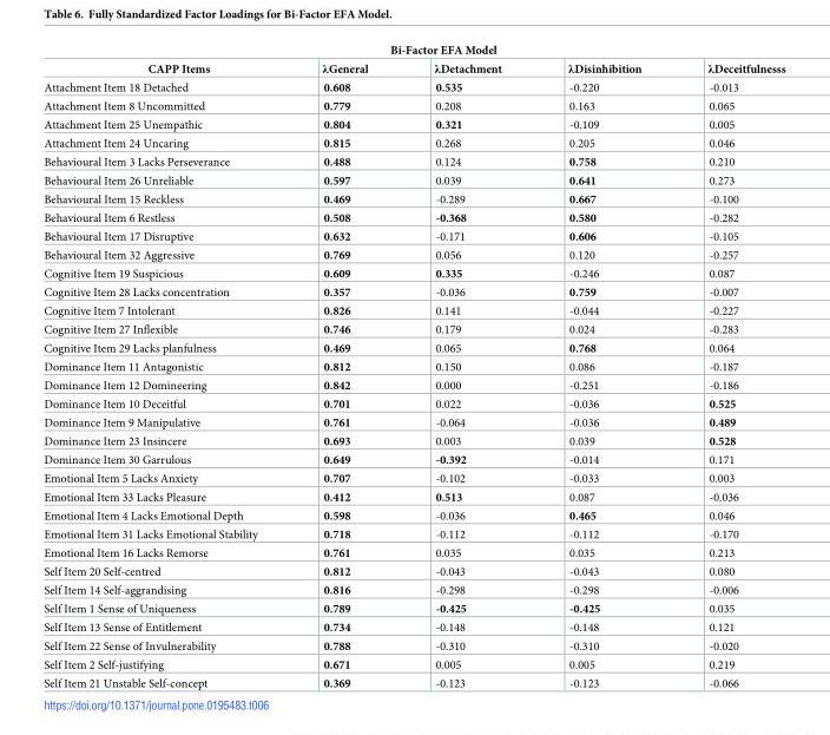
<table><thead><tr><td colspan="5">Bi-Factor EFA Model</td></tr><tr><td>CAPP Items</td><td>λGeneral</td><td>λDetachment</td><td>λDisinhibition</td><td>λDeceitfulnesss</td></tr></thead><tbody><tr><td>Attachment Item 18 Detached</td><td>0.608</td><td>0.535</td><td>-0.220</td><td>-0.013</td></tr><tr><td>Attachment Item 8 Uncommitted</td><td>0.779</td><td>0.208</td><td>0.163</td><td>0.065</td></tr><tr><td>Attachment Item 25 Unempathic</td><td>0.804</td><td>0.321</td><td>-0.109</td><td>0.005</td></tr><tr><td>Attachment Item 24 Uncaring</td><td>0.815</td><td>0.268</td><td>0.205</td><td>0.046</td></tr><tr><td>Behavioural Item 3 Lacks Perseverance</td><td>0.488</td><td>0.124</td><td>0.758</td><td>0.210</td></tr><tr><td>Behavioural Item 26 Unreliable</td><td>0.597</td><td>0.039</td><td>0.641</td><td>0.273</td></tr><tr><td>Behavioural Item 15 Reckless</td><td>0.469</td><td>-0.289</td><td>0.667</td><td>-0.100</td></tr><tr><td>Behavioural Item 6 Restless</td><td>0.508</td><td>-0.368</td><td>0.580</td><td>-0.282</td></tr><tr><td>Behavioural Item 17 Disruptive</td><td>0.632</td><td>-0.171</td><td>0.606</td><td>-0.105</td></tr><tr><td>Behavioural Item 32 Aggressive</td><td>0.769</td><td>0.056</td><td>0.120</td><td>-0.257</td></tr><tr><td>Cognitive Item 19 Suspicious</td><td>0.609</td><td>0.335</td><td>-0.246</td><td>0.087</td></tr><tr><td>Cognitive Item 28 Lacks concentration</td><td>0.357</td><td>-0.036</td><td>0.759</td><td>-0.007</td></tr><tr><td>Cognitive Item 7 Intolerant</td><td>0.826</td><td>0.141</td><td>-0.044</td><td>-0.227</td></tr><tr><td>Cognitive Item 27 Inflexible</td><td>0.746</td><td>0.179</td><td>0.024</td><td>-0.283</td></tr><tr><td>Cognitive Item 29 Lacks planfulness</td><td>0.469</td><td>0.065</td><td>0.768</td><td>0.064</td></tr><tr><td>Dominance Item 11 Antagonistic</td><td>0.812</td><td>0.150</td><td>0.086</td><td>-0.187</td></tr><tr><td>Dominance Item 12 Domineering</td><td>0.842</td><td>0.000</td><td>-0.251</td><td>-0.186</td></tr><tr><td>Dominance Item 10 Deceitful</td><td>0.701</td><td>0.022</td><td>-0.036</td><td>0.525</td></tr><tr><td>Dominance Item 9 Manipulative</td><td>0.761</td><td>-0.064</td><td>-0.036</td><td>0.489</td></tr><tr><td>Dominance Item 23 Insincere</td><td>0.693</td><td>0.003</td><td>0.039</td><td>0.528</td></tr><tr><td>Dominance Item 30 Garrulous</td><td>0.649</td><td>-0.392</td><td>-0.014</td><td>0.171</td></tr><tr><td>Emotional Item 5 Lacks Anxiety</td><td>0.707</td><td>-0.102</td><td>-0.033</td><td>0.003</td></tr><tr><td>Emotional Item 33 Lacks Pleasure</td><td>0.412</td><td>0.513</td><td>0.087</td><td>-0.036</td></tr><tr><td>Emotional Item 4 Lacks Emotional Depth</td><td>0.598</td><td>-0.036</td><td>0.465</td><td>0.046</td></tr><tr><td>Emotional Item 31 Lacks Emotional Stability</td><td>0.718</td><td>-0.112</td><td>-0.112</td><td>-0.170</td></tr><tr><td>Emotional Item 16 Lacks Remorse</td><td>0.761</td><td>0.035</td><td>0.035</td><td>0.213</td></tr><tr><td>Self Item 20 Self-centred</td><td>0.812</td><td>-0.043</td><td>-0.043</td><td>0.080</td></tr><tr><td>Self Item 14 Self-aggrandising</td><td>0.816</td><td>-0.298</td><td>-0.298</td><td>-0.006</td></tr><tr><td>Self Item 1 Sense of Uniqueness</td><td>0.789</td><td>-0.425</td><td>-0.425</td><td>0.035</td></tr><tr><td>Self Item 13 Sense of Entitlement</td><td>0.734</td><td>-0.148</td><td>-0.148</td><td>0.121</td></tr><tr><td>Self Item 22 Sense of Invulnerability</td><td>0.788</td><td>-0.310</td><td>-0.310</td><td>-0.020</td></tr><tr><td>Self Item 2 Self-justifying</td><td>0.671</td><td>0.005</td><td>0.005</td><td>0.219</td></tr><tr><td>Self Item 21 Unstable Self-concept</td><td>0.369</td><td>-0.123</td><td>-0.123</td><td>-0.066</td></tr></tbody></table>